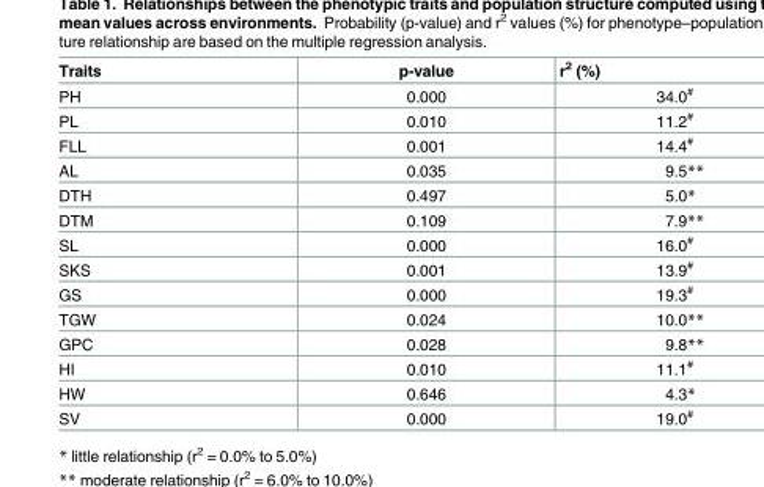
<table><thead><tr><td>Traits</td><td>p-value</td><td>r<sup>2</sup> (%)</td></tr></thead><tbody><tr><td>PH</td><td>0.000</td><td>34.0<sup>#</sup></td></tr><tr><td>PL</td><td>0.010</td><td>11.2<sup>#</sup></td></tr><tr><td>FLL</td><td>0.001</td><td>14.4<sup>#</sup></td></tr><tr><td>AL</td><td>0.035</td><td>9.5**</td></tr><tr><td>DTH</td><td>0.497</td><td>5.0*</td></tr><tr><td>DTM</td><td>0.109</td><td>7.9**</td></tr><tr><td>SL</td><td>0.000</td><td>16.0<sup>#</sup></td></tr><tr><td>SKS</td><td>0.001</td><td>13.9<sup>#</sup></td></tr><tr><td>GS</td><td>0.000</td><td>19.3<sup>#</sup></td></tr><tr><td>TGW</td><td>0.024</td><td>10.0**</td></tr><tr><td>GPC</td><td>0.028</td><td>9.8**</td></tr><tr><td>HI</td><td>0.010</td><td>11.1<sup>#</sup></td></tr><tr><td>HW</td><td>0.646</td><td>4.3*</td></tr><tr><td>SV</td><td>0.000</td><td>19.0<sup>#</sup></td></tr></tbody></table>